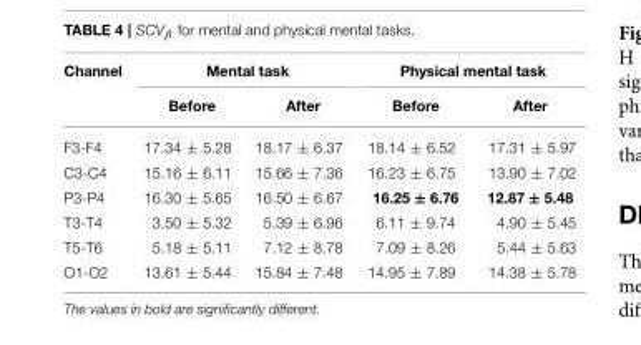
<table><thead><tr><td rowspan="2">Channel</td><td colspan="2">Mental task</td><td colspan="2">Physical mental task</td></tr><tr><td>Before</td><td>After</td><td>Before</td><td>After</td></tr></thead><tbody><tr><td>F3-F4</td><td>17.34 ± 5.28</td><td>18.17 ± 6.37</td><td>18.14 ± 6.52</td><td>17.31 ± 5.97</td></tr><tr><td>C3-C4</td><td>15.16 ± 6.11</td><td>15.66 ± 7.36</td><td>16.23 ± 6.75</td><td>13.90 ± 7.02</td></tr><tr><td>P3-P4</td><td>16.30 ± 5.65</td><td>16.50 ± 6.67</td><td>16.25 ± 6.76</td><td>12.87 ± 5.48</td></tr><tr><td>T3-T4</td><td>3.50 ± 5.32</td><td>5.39 ± 6.96</td><td>6.11 ± 9.74</td><td>4.90 ± 5.45</td></tr><tr><td>T5-T6</td><td>5.18 ± 5.11</td><td>7.12 ± 8.78</td><td>7.09 ± 8.26</td><td>5.44 ± 5.63</td></tr><tr><td>O1-O2</td><td>13.61 ± 5.44</td><td>15.84 ± 7.48</td><td>14.95 ± 7.89</td><td>14.38 ± 5.78</td></tr></tbody></table>